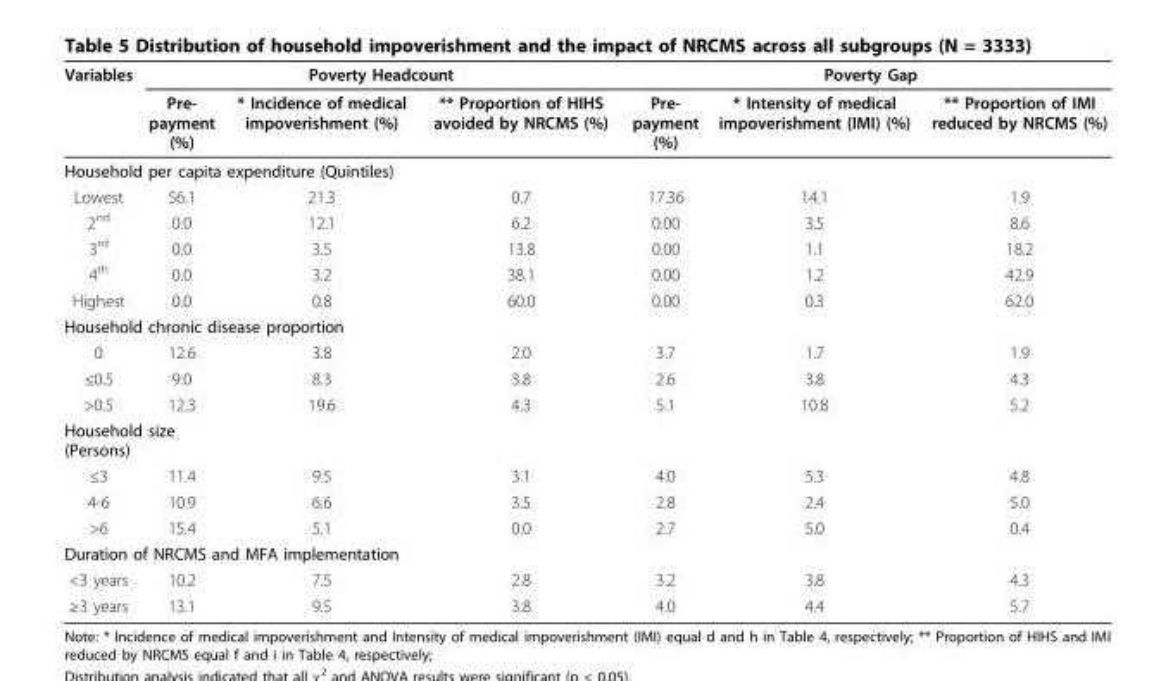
<table><thead><tr><td rowspan="2">Variables</td><td colspan="3">Poverty Headcount</td><td colspan="3">Poverty Gap</td></tr><tr><td>Pre- payment (%)</td><td>* Incidence of medical impoverishment (%)</td><td>** Proportion of HIHS avoided by NRCMS (%)</td><td>Pre- payment (%)</td><td>* Intensity of medical impoverishment (IMI) (%)</td><td>** Proportion of IMI reduced by NRCMS (%)</td></tr></thead><tbody><tr><td colspan="7">Household per capita expenditure (Quintiles)</td></tr><tr><td>Lowest</td><td>56.1</td><td>21.3</td><td>0.7</td><td>17.36</td><td>14.1</td><td>1.9</td></tr><tr><td>2<sup>nd</sup></td><td>0.0</td><td>12.1</td><td>6.2</td><td>0.00</td><td>3.5</td><td>8.6</td></tr><tr><td>3<sup>rd</sup></td><td>0.0</td><td>3.5</td><td>13.8</td><td>0.00</td><td>1.1</td><td>18.2</td></tr><tr><td>4<sup>th</sup></td><td>0.0</td><td>3.2</td><td>38.1</td><td>0.00</td><td>1.2</td><td>42.9</td></tr><tr><td>Highest</td><td>0.0</td><td>0.8</td><td>60.0</td><td>0.00</td><td>0.3</td><td>62.0</td></tr><tr><td colspan="7">Household chronic disease proportion</td></tr><tr><td>0</td><td>12.6</td><td>3.8</td><td>2.0</td><td>3.7</td><td>1.7</td><td>1.9</td></tr><tr><td>≤0.5</td><td>9.0</td><td>8.3</td><td>3.8</td><td>2.6</td><td>3.8</td><td>4.3</td></tr><tr><td>&gt;0.5</td><td>12.3</td><td>19.6</td><td>4.3</td><td>5.1</td><td>10.8</td><td>5.2</td></tr><tr><td colspan="7">Household size (Persons)</td></tr><tr><td>≤3</td><td>11.4</td><td>9.5</td><td>3.1</td><td>4.0</td><td>5.3</td><td>4.8</td></tr><tr><td>4-6</td><td>10.9</td><td>6.6</td><td>3.5</td><td>2.8</td><td>2.4</td><td>5.0</td></tr><tr><td>&gt;6</td><td>15.4</td><td>5.1</td><td>0.0</td><td>2.7</td><td>5.0</td><td>0.4</td></tr><tr><td colspan="7">Duration of NRCMS and MFA implementation</td></tr><tr><td>&lt;3 years</td><td>10.2</td><td>7.5</td><td>2.8</td><td>3.2</td><td>3.8</td><td>4.3</td></tr><tr><td>≥3 years</td><td>13.1</td><td>9.5</td><td>3.8</td><td>4.0</td><td>4.4</td><td>5.7</td></tr></tbody></table>